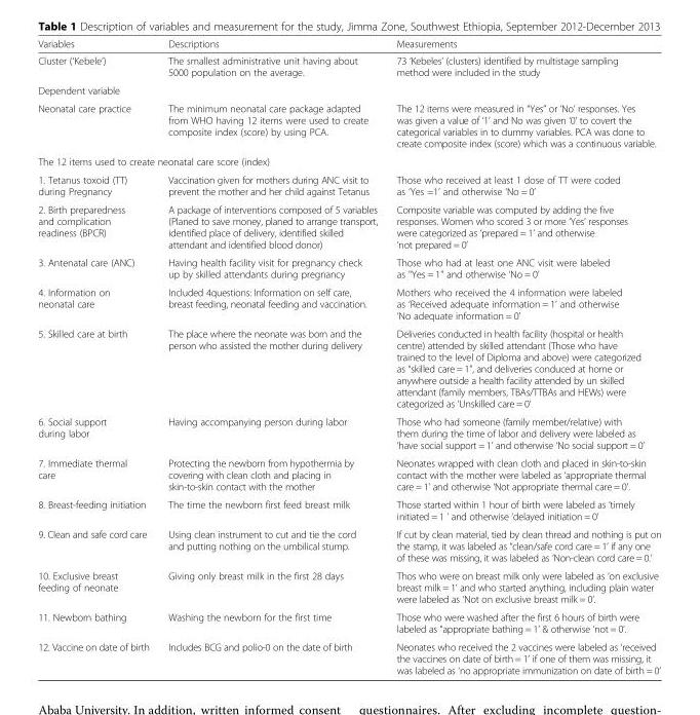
<table><thead><tr><td>Variables</td><td>Descriptions</td><td>Measurements</td></tr></thead><tbody><tr><td>Cluster (‘Kebele’)</td><td>The smallest administrative unit having about 5000 population on the average.</td><td>73 ‘Kebeles’ (clusters) identified by multistage sampling method were included in the study</td></tr><tr><td colspan="3">Dependent variable</td></tr><tr><td>Neonatal care practice</td><td>The minimum neonatal care package adapted from WHO having 12 items were used to create composite index (score) by using PCA.</td><td>The 12 items were measured in “Yes” or ‘No’ responses. Yes was given a value of ‘1’ and No was given ‘0’ to covert the categorical variables in to dummy variables. PCA was done to create composite index (score) which was a continuous variable.</td></tr><tr><td colspan="3">The 12 items used to create neonatal care score (index)</td></tr><tr><td>1. Tetanus toxoid (TT) during Pregnancy</td><td>Vaccination given for mothers during ANC visit to prevent the mother and her child against Tetanus</td><td>Those who received at least 1 dose of TT were coded as ‘Yes =1’ and otherwise ‘No = 0’</td></tr><tr><td>2. Birth preparedness and complication readiness (BPCR)</td><td>A package of interventions composed of 5 variables (Planed to save money, planed to arrange transport, identified place of delivery, identified skilled attendant and identified blood donor)</td><td>Composite variable was computed by adding the five responses. Women who scored 3 or more ‘Yes’ responses were categorized as ‘prepared = 1’ and otherwise ‘not prepared = 0’</td></tr><tr><td>3. Antenatal care (ANC)</td><td>Having health facility visit for pregnancy check up by skilled attendants during pregnancy</td><td>Those who had at least one ANC visit were labeled as &quot;Yes = 1&quot; and otherwise ‘No = 0’</td></tr><tr><td>4. Information on neonatal care</td><td>Included 4questions: Information on self care, breast feeding, neonatal feeding and vaccination.</td><td>Mothers who received the 4 information were labeled as ‘Received adequate information = 1’ and otherwise ‘No adequate information = 0’</td></tr><tr><td>5. Skilled care at birth</td><td>The place where the neonate was born and the person who assisted the mother during delivery</td><td>Deliveries conducted in health facility (hospital or health centre) attended by skilled attendant (Those who have trained to the level of Diploma and above) were categorized as “skilled care = 1”, and deliveries conduced at home or anywhere outside a health facility attended by un skilled attendant (family members, TBAs/TTBAs and HEWs) were categorized as ‘Unskilled care = 0’</td></tr><tr><td>6. Social support during labor</td><td>Having accompanying person during labor</td><td>Those who had someone (family member/relative) with them during the time of labor and delivery were labeled as ‘have social support = 1’ and otherwise ‘No social support = 0’</td></tr><tr><td>7. Immediate thermal care</td><td>Protecting the newborn from hypothermia by covering with clean cloth and placing in skin-to-skin contact with the mother</td><td>Neonates wrapped with clean cloth and placed in skin-to-skin contact with the mother were labeled as ‘appropriate thermal care = 1’ and otherwise ‘Not appropriate thermal care = 0’.</td></tr><tr><td>8. Breast-feeding initiation</td><td>The time the newborn first feed breast milk</td><td>Those started within 1 hour of birth were labeled as ‘timely initiated = 1 ’ and otherwise ‘delayed initiation = 0’</td></tr><tr><td>9. Clean and safe cord care</td><td>Using clean instrument to cut and tie the cord and putting nothing on the umbilical stump.</td><td>If cut by clean material, tied by clean thread and nothing is put on the stamp, it was labeled as “clean/safe cord care = 1’ if any one of these was missing, it was labeled as ‘Non-clean cord care = 0.’</td></tr><tr><td>10. Exclusive breast feeding of neonate</td><td>Giving only breast milk in the first 28 days</td><td>Thos who were on breast milk only were labeled as ‘on exclusive breast milk = 1’ and who started anything, including plain water were labeled as ‘Not on exclusive breast milk = 0’.</td></tr><tr><td>11. Newborn bathing</td><td>Washing the newborn for the first time</td><td>Those who were washed after the first 6 hours of birth were labeled as “appropriate bathing = 1’ &amp; otherwise ‘not = 0’.</td></tr><tr><td>12. Vaccine on date of birth</td><td>Includes BCG and polio-0 on the date of birth</td><td>Neonates who received the 2 vaccines were labeled as ‘received the vaccines on date of birth = 1’ if one of them was missing, it was labeled as ‘no appropriate immunization on date of birth = 0’</td></tr></tbody></table>